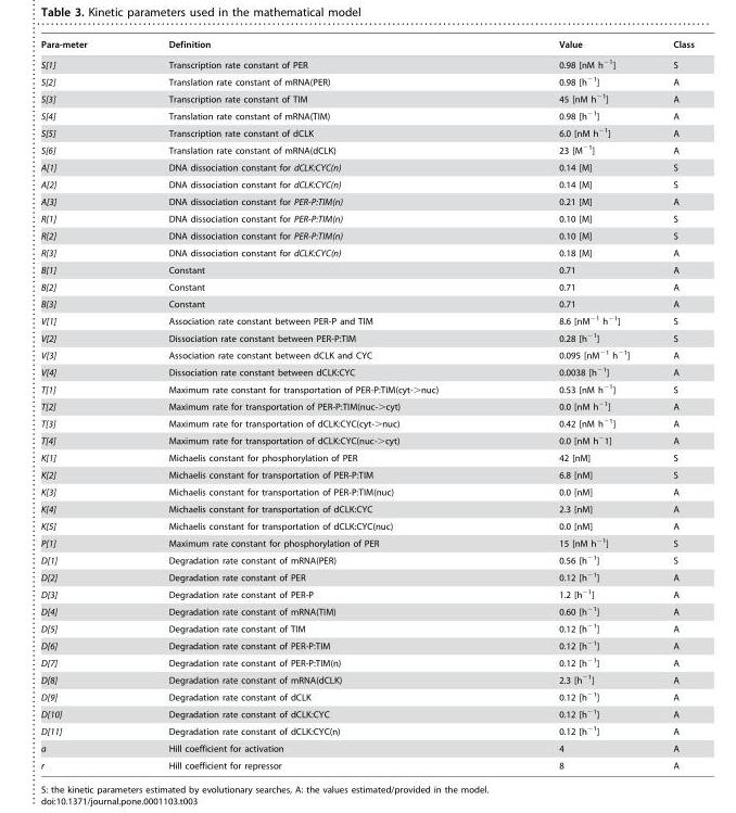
<table><thead><tr><td>Para-meter</td><td>Definition</td><td>Value</td><td>Class</td></tr></thead><tbody><tr><td>S[1]</td><td>Transcription rate constant of PER</td><td>0.98 [nM h<sup>−1</sup>]</td><td>S</td></tr><tr><td>S[2]</td><td>Translation rate constant of mRNA(PER)</td><td>0.98 [h<sup>−1</sup>]</td><td>A</td></tr><tr><td>S[3]</td><td>Transcription rate constant of TIM</td><td>45 [nM h<sup>−1</sup>]</td><td>A</td></tr><tr><td>S[4]</td><td>Translation rate constant of mRNA(TIM)</td><td>0.98 [h<sup>−1</sup>]</td><td>A</td></tr><tr><td>S[5]</td><td>Transcription rate constant of dCLK</td><td>6.0 [nM h<sup>−1</sup>]</td><td>A</td></tr><tr><td>S[6]</td><td>Translation rate constant of mRNA(dCLK)</td><td>23 [M<sup>−1</sup>]</td><td>A</td></tr><tr><td>A[1]</td><td>DNA dissociation constant for dCLK:CYC(n)</td><td>0.14 [M]</td><td>S</td></tr><tr><td>A[2]</td><td>DNA dissociation constant for dCLK:CYC(n)</td><td>0.14 [M]</td><td>S</td></tr><tr><td>A[3]</td><td>DNA dissociation constant for PER-P:TIM(n)</td><td>0.21 [M]</td><td>A</td></tr><tr><td>R[1]</td><td>DNA dissociation constant for PER-P:TIM(n)</td><td>0.10 [M]</td><td>S</td></tr><tr><td>R[2]</td><td>DNA dissociation constant for PER-P:TIM(n)</td><td>0.10 [M]</td><td>S</td></tr><tr><td>R[3]</td><td>DNA dissociation constant for dCLK:CYC(n)</td><td>0.18 [M]</td><td>A</td></tr><tr><td>B[1]</td><td>Constant</td><td>0.71</td><td>A</td></tr><tr><td>B[2]</td><td>Constant</td><td>0.71</td><td>A</td></tr><tr><td>B[3]</td><td>Constant</td><td>0.71</td><td>A</td></tr><tr><td>V[1]</td><td>Association rate constant between PER-P and TIM</td><td>8.6 [nM<sup>−1</sup> h<sup>−1</sup>]</td><td>S</td></tr><tr><td>V[2]</td><td>Dissociation rate constant between PER-P:TIM</td><td>0.28 [h<sup>−1</sup>]</td><td>S</td></tr><tr><td>V[3]</td><td>Association rate constant between dCLK and CYC</td><td>0.095 [nM<sup>−1</sup> h<sup>−1</sup>]</td><td>A</td></tr><tr><td>V[4]</td><td>Dissociation rate constant between dCLK:CYC</td><td>0.0038 [h<sup>−1</sup>]</td><td>A</td></tr><tr><td>T[1]</td><td>Maximum rate constant for transportation of PER-P:TIM(cyt-&gt;nuc)</td><td>0.53 [nM h<sup>−1</sup>]</td><td>S</td></tr><tr><td>T[2]</td><td>Maximum rate for transportation of PER-P:TIM(nuc-&gt;cyt)</td><td>0.0 [nM h<sup>−1</sup>]</td><td>A</td></tr><tr><td>T[3]</td><td>Maximum rate for transportation of dCLK:CYC(cyt-&gt;nuc)</td><td>0.42 [nM h<sup>−1</sup>]</td><td>A</td></tr><tr><td>T[4]</td><td>Maximum rate for transportation of dCLK:CYC(nuc-&gt;cyt)</td><td>0.0 [nM h<sup>−</sup>1]</td><td>A</td></tr><tr><td>K[1]</td><td>Michaelis constant for phosphorylation of PER</td><td>42 [nM]</td><td>S</td></tr><tr><td>K[2]</td><td>Michaelis constant for transportation of PER-P:TIM</td><td>6.8 [nM]</td><td>S</td></tr><tr><td>K[3]</td><td>Michaelis constant for transportation of PER-P:TIM(nuc)</td><td>0.0 [nM]</td><td>A</td></tr><tr><td>K[4]</td><td>Michaelis constant for transportation of dCLK:CYC</td><td>2.3 [nM]</td><td>A</td></tr><tr><td>K[5]</td><td>Michaelis constant for transportation of dCLK:CYC(nuc)</td><td>0.0 [nM]</td><td>A</td></tr><tr><td>P[1]</td><td>Maximum rate constant for phosphorylation of PER</td><td>15 [nM h<sup>−1</sup>]</td><td>S</td></tr><tr><td>D[1]</td><td>Degradation rate constant of mRNA(PER)</td><td>0.56 [h<sup>−1</sup>]</td><td>S</td></tr><tr><td>D[2]</td><td>Degradation rate constant of PER</td><td>0.12 [h<sup>−1</sup>]</td><td>A</td></tr><tr><td>D[3]</td><td>Degradation rate constant of PER-P</td><td>1.2 [h<sup>−1</sup>]</td><td>A</td></tr><tr><td>D[4]</td><td>Degradation rate constant of mRNA(TIM)</td><td>0.60 [h<sup>−1</sup>]</td><td>A</td></tr><tr><td>D[5]</td><td>Degradation rate constant of TIM</td><td>0.12 [h<sup>−1</sup>]</td><td>A</td></tr><tr><td>D[6]</td><td>Degradation rate constant of PER-P:TIM</td><td>0.12 [h<sup>−1</sup>]</td><td>A</td></tr><tr><td>D[7]</td><td>Degradation rate constant of PER-P:TIM(n)</td><td>0.12 [h<sup>−1</sup>]</td><td>A</td></tr><tr><td>D[8]</td><td>Degradation rate constant of mRNA(dCLK)</td><td>2.3 [h<sup>−1</sup>]</td><td>A</td></tr><tr><td>D[9]</td><td>Degradation rate constant of dCLK</td><td>0.12 [h<sup>−1</sup>]</td><td>A</td></tr><tr><td>D[10]</td><td>Degradation rate constant of dCLK:CYC</td><td>0.12 [h<sup>−1</sup>]</td><td>A</td></tr><tr><td>D[11]</td><td>Degradation rate constant of dCLK:CYC(n)</td><td>0.12 [h<sup>−1</sup>]</td><td>A</td></tr><tr><td>a</td><td>Hill coefficient for activation</td><td>4</td><td>A</td></tr><tr><td>r</td><td>Hill coefficient for repressor</td><td>8</td><td>A</td></tr></tbody></table>